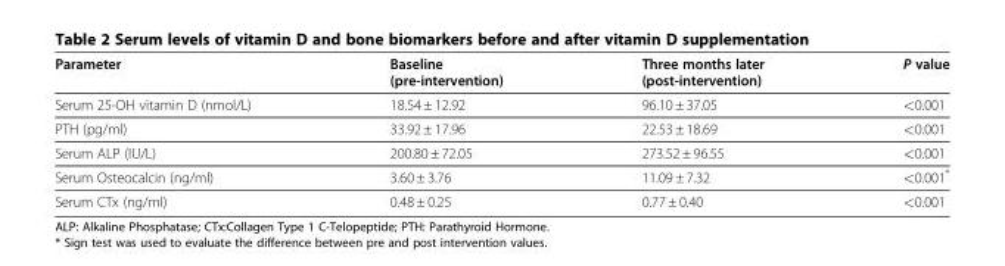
<table><thead><tr><td>Parameter</td><td>Baseline (pre-intervention)</td><td>Three months later (post-intervention)</td><td>P value</td></tr></thead><tbody><tr><td>Serum 25-OH vitamin D (nmol/L)</td><td>18.54 ± 12.92</td><td>96.10 ± 37.05</td><td>&lt;0.001</td></tr><tr><td>PTH (pg/ml)</td><td>33.92 ± 17.96</td><td>22.53 ± 18.69</td><td>&lt;0.001</td></tr><tr><td>Serum ALP (IU/L)</td><td>200.80 ± 72.05</td><td>273.52 ± 96.55</td><td>&lt;0.001</td></tr><tr><td>Serum Osteocalcin (ng/ml)</td><td>3.60 ± 3.76</td><td>11.09 ± 7.32</td><td>&lt;0.001*</td></tr><tr><td>Serum CTx (ng/ml)</td><td>0.48 ± 0.25</td><td>0.77 ± 0.40</td><td>&lt;0.001</td></tr></tbody></table>